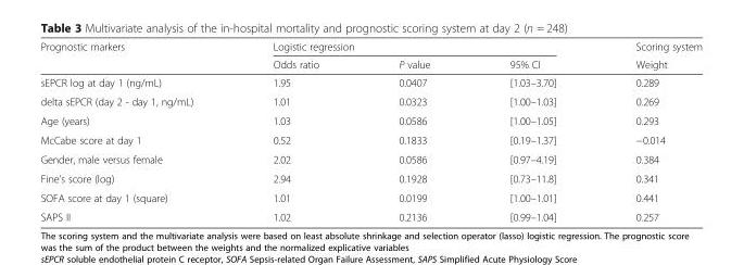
<table><thead><tr><td rowspan="2">Prognostic markers</td><td colspan="3">Logistic regression</td><td rowspan="2">Scoring system Weight</td></tr><tr><td>Odds ratio</td><td>P value</td><td>95% CI</td></tr></thead><tbody><tr><td>sEPCR log at day 1 (ng/mL)</td><td>1.95</td><td>0.0407</td><td>[1.03–3.70]</td><td>0.289</td></tr><tr><td>delta sEPCR (day 2 - day 1, ng/mL)</td><td>1.01</td><td>0.0323</td><td>[1.00–1.03]</td><td>0.269</td></tr><tr><td>Age (years)</td><td>1.03</td><td>0.0586</td><td>[1.00–1.05]</td><td>0.293</td></tr><tr><td>McCabe score at day 1</td><td>0.52</td><td>0.1833</td><td>[0.19–1.37]</td><td>−0.014</td></tr><tr><td>Gender, male versus female</td><td>2.02</td><td>0.0586</td><td>[0.97–4.19]</td><td>0.384</td></tr><tr><td>Fine’s score (log)</td><td>2.94</td><td>0.1928</td><td>[0.73–11.8]</td><td>0.341</td></tr><tr><td>SOFA score at day 1 (square)</td><td>1.01</td><td>0.0199</td><td>[1.00–1.01]</td><td>0.441</td></tr><tr><td>SAPS II</td><td>1.02</td><td>0.2136</td><td>[0.99–1.04]</td><td>0.257</td></tr></tbody></table>